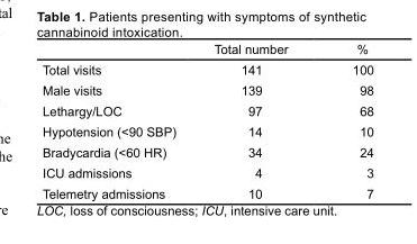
<table><thead><tr><td></td><td>Total number</td><td>%</td></tr></thead><tbody><tr><td>Total visits</td><td>141</td><td>100</td></tr><tr><td>Male visits</td><td>139</td><td>98</td></tr><tr><td>Lethargy/LOC</td><td>97</td><td>68</td></tr><tr><td>Hypotension (&lt;90 SBP)</td><td>14</td><td>10</td></tr><tr><td>Bradycardia (&lt;60 HR)</td><td>34</td><td>24</td></tr><tr><td>ICU admissions</td><td>4</td><td>3</td></tr><tr><td>Telemetry admissions</td><td>10</td><td>7</td></tr></tbody></table>